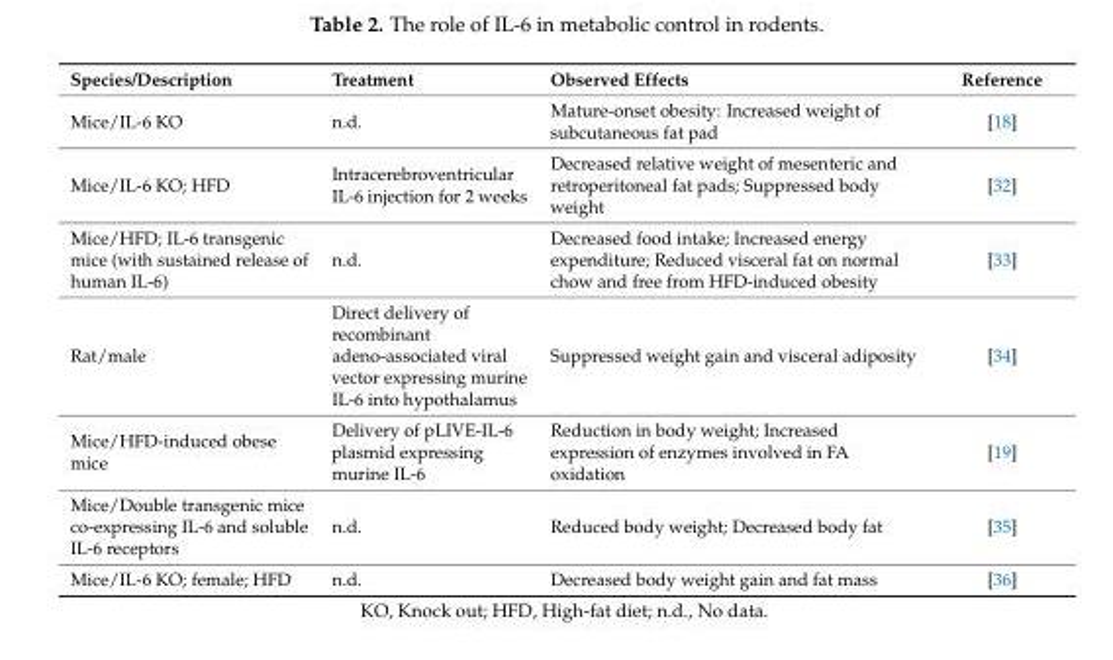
<table><thead><tr><td>Species/Description</td><td>Treatment</td><td>Observed Effects</td><td>Reference</td></tr></thead><tbody><tr><td>Mice/IL-6 KO</td><td>n.d.</td><td>Mature-onset obesity: Increased weight of subcutaneous fat pad</td><td>[18]</td></tr><tr><td>Mice/IL-6 KO; HFD</td><td>Intracerebroventricular IL-6 injection for 2 weeks</td><td>Decreased relative weight of mesenteric and retroperitoneal fat pads; Suppressed body weight</td><td>[32]</td></tr><tr><td>Mice/HFD; IL-6 transgenic mice (with sustained release of human IL-6)</td><td>n.d.</td><td>Decreased food intake; Increased energy expenditure; Reduced visceral fat on normal chow and free from HFD-induced obesity</td><td>[33]</td></tr><tr><td>Rat/male</td><td>Direct delivery of recombinant adeno-associated viral vector expressing murine IL-6 into hypothalamus</td><td>Suppressed weight gain and visceral adiposity</td><td>[34]</td></tr><tr><td>Mice/HFD-induced obese mice</td><td>Delivery of pLIVE-IL-6 plasmid expressing murine IL-6</td><td>Reduction in body weight; Increased expression of enzymes involved in FA oxidation</td><td>[19]</td></tr><tr><td>Mice/Double transgenic mice co-expressing IL-6 and soluble IL-6 receptors</td><td>n.d.</td><td>Reduced body weight; Decreased body fat</td><td>[35]</td></tr><tr><td>Mice/IL-6 KO; female; HFD</td><td>n.d.</td><td>Decreased body weight gain and fat mass</td><td>[36]</td></tr></tbody></table>